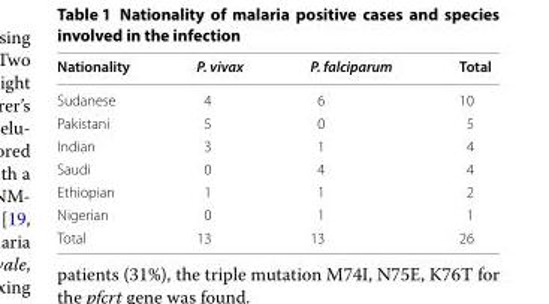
<table><thead><tr><td>Nationality</td><td>P. vivax</td><td>P. falciparum</td><td>Total</td></tr></thead><tbody><tr><td>Sudanese</td><td>4</td><td>6</td><td>10</td></tr><tr><td>Pakistani</td><td>5</td><td>0</td><td>5</td></tr><tr><td>Indian</td><td>3</td><td>1</td><td>4</td></tr><tr><td>Saudi</td><td>0</td><td>4</td><td>4</td></tr><tr><td>Ethiopian</td><td>1</td><td>1</td><td>2</td></tr><tr><td>Nigerian</td><td>0</td><td>1</td><td>1</td></tr><tr><td>Total</td><td>13</td><td>13</td><td>26</td></tr></tbody></table>